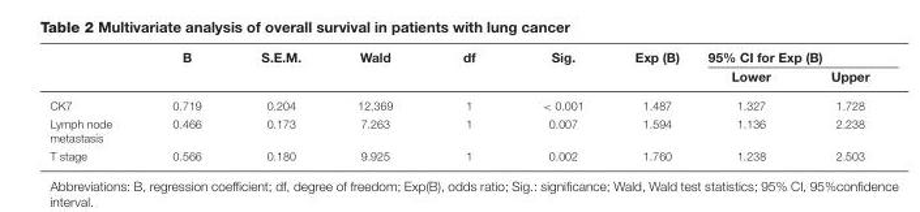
<table><thead><tr><td rowspan="2"></td><td rowspan="2">B</td><td rowspan="2">S.E.M.</td><td rowspan="2">Wald</td><td rowspan="2">df</td><td rowspan="2">Sig.</td><td rowspan="2">Exp (B)</td><td colspan="2">95% CI for Exp (B)</td></tr><tr><td>Lower</td><td>Upper</td></tr></thead><tbody><tr><td>CK7</td><td>0.719</td><td>0.204</td><td>12.369</td><td>1</td><td>&lt; 0.001</td><td>1.487</td><td>1.327</td><td>1.728</td></tr><tr><td>Lymph node metastasis</td><td>0.466</td><td>0.173</td><td>7.263</td><td>1</td><td>0.007</td><td>1.594</td><td>1.136</td><td>2.238</td></tr><tr><td>T stage</td><td>0.566</td><td>0.180</td><td>9.925</td><td>1</td><td>0.002</td><td>1.760</td><td>1.238</td><td>2.503</td></tr></tbody></table>